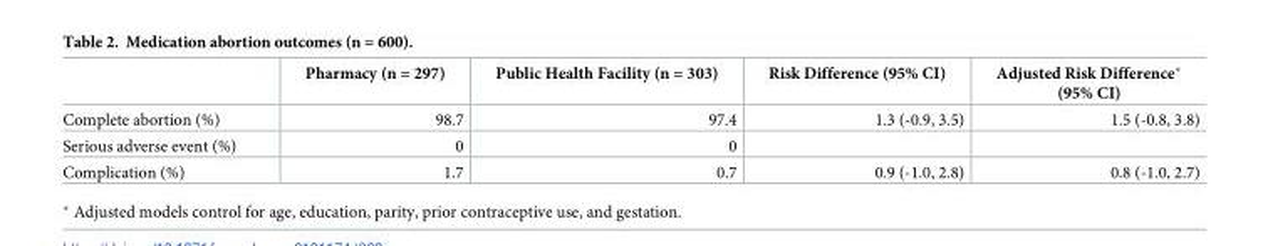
<table><thead><tr><td></td><td>Pharmacy (n = 297)</td><td>Public Health Facility (n = 303)</td><td>Risk Difference (95% CI)</td><td>Adjusted Risk Difference* (95% CI)</td></tr></thead><tbody><tr><td>Complete abortion (%)</td><td>98.7</td><td>97.4</td><td>1.3 (-0.9, 3.5)</td><td>1.5 (-0.8, 3.8)</td></tr><tr><td>Serious adverse event (%)</td><td>0</td><td>0</td><td></td><td></td></tr><tr><td>Complication (%)</td><td>1.7</td><td>0.7</td><td>0.9 (-1.0, 2.8)</td><td>0.8 (-1.0, 2.7)</td></tr></tbody></table>